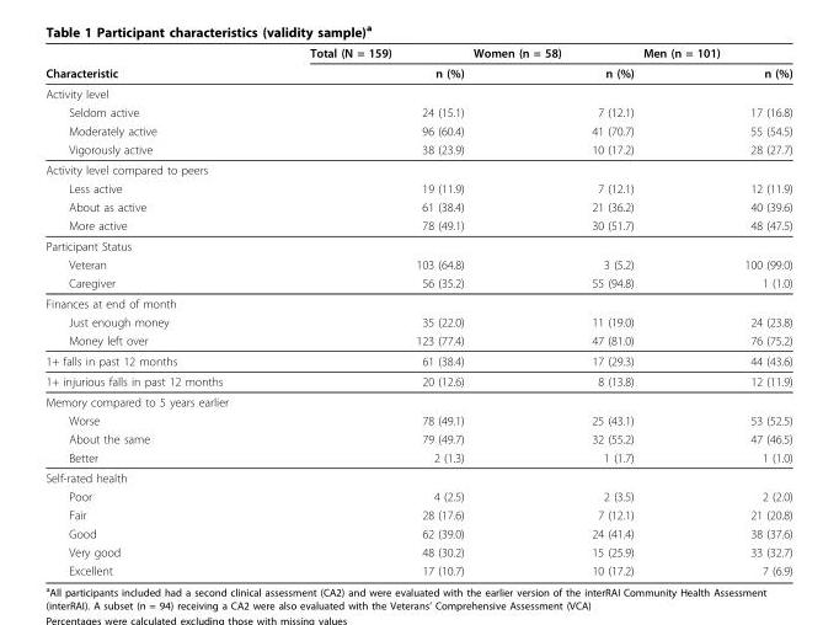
<table><thead><tr><td rowspan="2">Characteristic</td><td rowspan="2">Total (N = 159) n (%)</td><td rowspan="2">Women (n = 58) n (%)</td><td rowspan="2">Men (n = 101) n (%)</td></tr><tr></tr></thead><tbody><tr><td colspan="4">Activity level</td></tr><tr><td>Seldom active</td><td>24 (15.1)</td><td>7 (12.1)</td><td>17 (16.8)</td></tr><tr><td>Moderately active</td><td>96 (60.4)</td><td>41 (70.7)</td><td>55 (54.5)</td></tr><tr><td>Vigorously active</td><td>38 (23.9)</td><td>10 (17.2)</td><td>28 (27.7)</td></tr><tr><td colspan="4">Activity level compared to peers</td></tr><tr><td>Less active</td><td>19 (11.9)</td><td>7 (12.1)</td><td>12 (11.9)</td></tr><tr><td>About as active</td><td>61 (38.4)</td><td>21 (36.2)</td><td>40 (39.6)</td></tr><tr><td>More active</td><td>78 (49.1)</td><td>30 (51.7)</td><td>48 (47.5)</td></tr><tr><td colspan="4">Participant Status</td></tr><tr><td>Veteran</td><td>103 (64.8)</td><td>3 (5.2)</td><td>100 (99.0)</td></tr><tr><td>Caregiver</td><td>56 (35.2)</td><td>55 (94.8)</td><td>1 (1.0)</td></tr><tr><td colspan="4">Finances at end of month</td></tr><tr><td>Just enough money</td><td>35 (22.0)</td><td>11 (19.0)</td><td>24 (23.8)</td></tr><tr><td>Money left over</td><td>123 (77.4)</td><td>47 (81.0)</td><td>76 (75.2)</td></tr><tr><td>1+ falls in past 12 months</td><td>61 (38.4)</td><td>17 (29.3)</td><td>44 (43.6)</td></tr><tr><td>1+ injurious falls in past 12 months</td><td>20 (12.6)</td><td>8 (13.8)</td><td>12 (11.9)</td></tr><tr><td colspan="4">Memory compared to 5 years earlier</td></tr><tr><td>Worse</td><td>78 (49.1)</td><td>25 (43.1)</td><td>53 (52.5)</td></tr><tr><td>About the same</td><td>79 (49.7)</td><td>32 (55.2)</td><td>47 (46.5)</td></tr><tr><td>Better</td><td>2 (1.3)</td><td>1 (1.7)</td><td>1 (1.0)</td></tr><tr><td colspan="4">Self-rated health</td></tr><tr><td>Poor</td><td>4 (2.5)</td><td>2 (3.5)</td><td>2 (2.0)</td></tr><tr><td>Fair</td><td>28 (17.6)</td><td>7 (12.1)</td><td>21 (20.8)</td></tr><tr><td>Good</td><td>62 (39.0)</td><td>24 (41.4)</td><td>38 (37.6)</td></tr><tr><td>Very good</td><td>48 (30.2)</td><td>15 (25.9)</td><td>33 (32.7)</td></tr><tr><td>Excellent</td><td>17 (10.7)</td><td>10 (17.2)</td><td>7 (6.9)</td></tr></tbody></table>